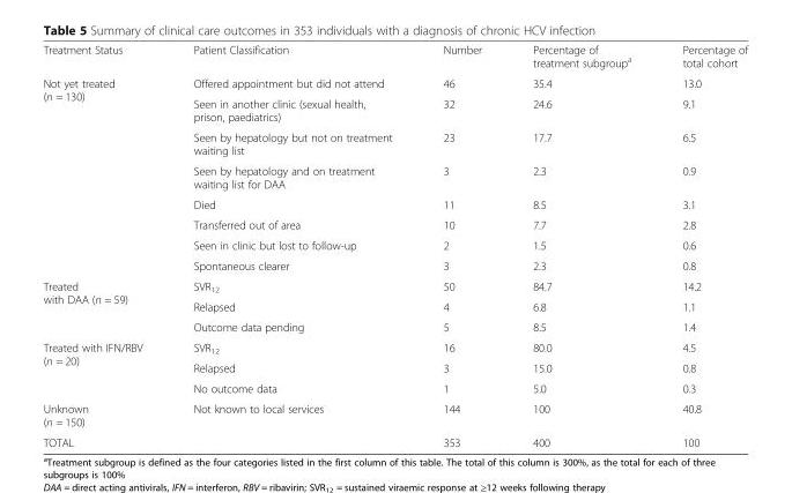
<table><tbody><tr><td>Treatment Status</td><td>Patient Classification</td><td>Number</td><td>Percentage of treatment subgroup<sup>a</sup></td><td>Percentage of total cohort</td></tr><tr><td rowspan="8">Not yet treated (n = 130)</td><td>Offered appointment but did not attend</td><td>46</td><td>35.4</td><td>13.0</td></tr><tr><td>Seen in another clinic (sexual health, prison, paediatrics)</td><td>32</td><td>24.6</td><td>9.1</td></tr><tr><td>Seen by hepatology but not on treatment waiting list</td><td>23</td><td>17.7</td><td>6.5</td></tr><tr><td>Seen by hepatology and on treatment waiting list for DAA</td><td>3</td><td>2.3</td><td>0.9</td></tr><tr><td>Died</td><td>11</td><td>8.5</td><td>3.1</td></tr><tr><td>Transferred out of area</td><td>10</td><td>7.7</td><td>2.8</td></tr><tr><td>Seen in clinic but lost to follow-up</td><td>2</td><td>1.5</td><td>0.6</td></tr><tr><td>Spontaneous clearer</td><td>3</td><td>2.3</td><td>0.8</td></tr><tr><td rowspan="3">Treated with DAA (n = 59)</td><td>SVR<sub>12</sub></td><td>50</td><td>84.7</td><td>14.2</td></tr><tr><td>Relapsed</td><td>4</td><td>6.8</td><td>1.1</td></tr><tr><td>Outcome data pending</td><td>5</td><td>8.5</td><td>1.4</td></tr><tr><td rowspan="3">Treated with IFN/RBV (n = 20)</td><td>SVR<sub>12</sub></td><td>16</td><td>80.0</td><td>4.5</td></tr><tr><td>Relapsed</td><td>3</td><td>15.0</td><td>0.8</td></tr><tr><td>No outcome data</td><td>1</td><td>5.0</td><td>0.3</td></tr><tr><td>Unknown (n = 150)</td><td>Not known to local services</td><td>144</td><td>100</td><td>40.8</td></tr><tr><td>TOTAL</td><td></td><td>353</td><td>400</td><td>100</td></tr></tbody></table>